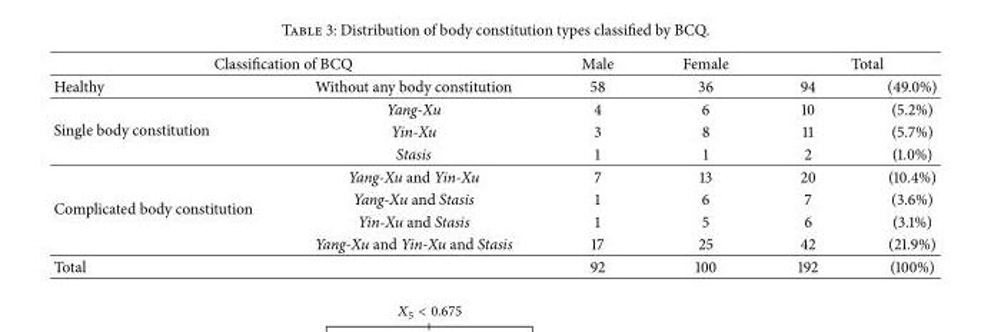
<table><thead><tr><td colspan="2">Classification of BCQ</td><td rowspan="2">Male 58</td><td rowspan="2">Female 36</td><td colspan="2">Total</td></tr><tr><td>Healthy</td><td>Without any body constitution</td><td>94</td><td>(49.0%)</td></tr></thead><tbody><tr><td rowspan="3">Single body constitution</td><td>Yang-Xu</td><td>4</td><td>6</td><td>10</td><td>(5.2%)</td></tr><tr><td>Yin-Xu</td><td>3</td><td>8</td><td>11</td><td>(5.7%)</td></tr><tr><td>Stasis</td><td>1</td><td>1</td><td>2</td><td>(1.0%)</td></tr><tr><td rowspan="4">Complicated body constitution</td><td>Yang-Xu and Yin-Xu</td><td>7</td><td>13</td><td>20</td><td>(10.4%)</td></tr><tr><td>Yang-Xu and Stasis</td><td>1</td><td>6</td><td>7</td><td>(3.6%)</td></tr><tr><td>Yin-Xu and Stasis</td><td>1</td><td>5</td><td>6</td><td>(3.1%)</td></tr><tr><td>Yang-Xu and Yin-Xu and Stasis</td><td>17</td><td>25</td><td>42</td><td>(21.9%)</td></tr><tr><td>Total</td><td></td><td>92</td><td>100</td><td>192</td><td>(100%)</td></tr></tbody></table>